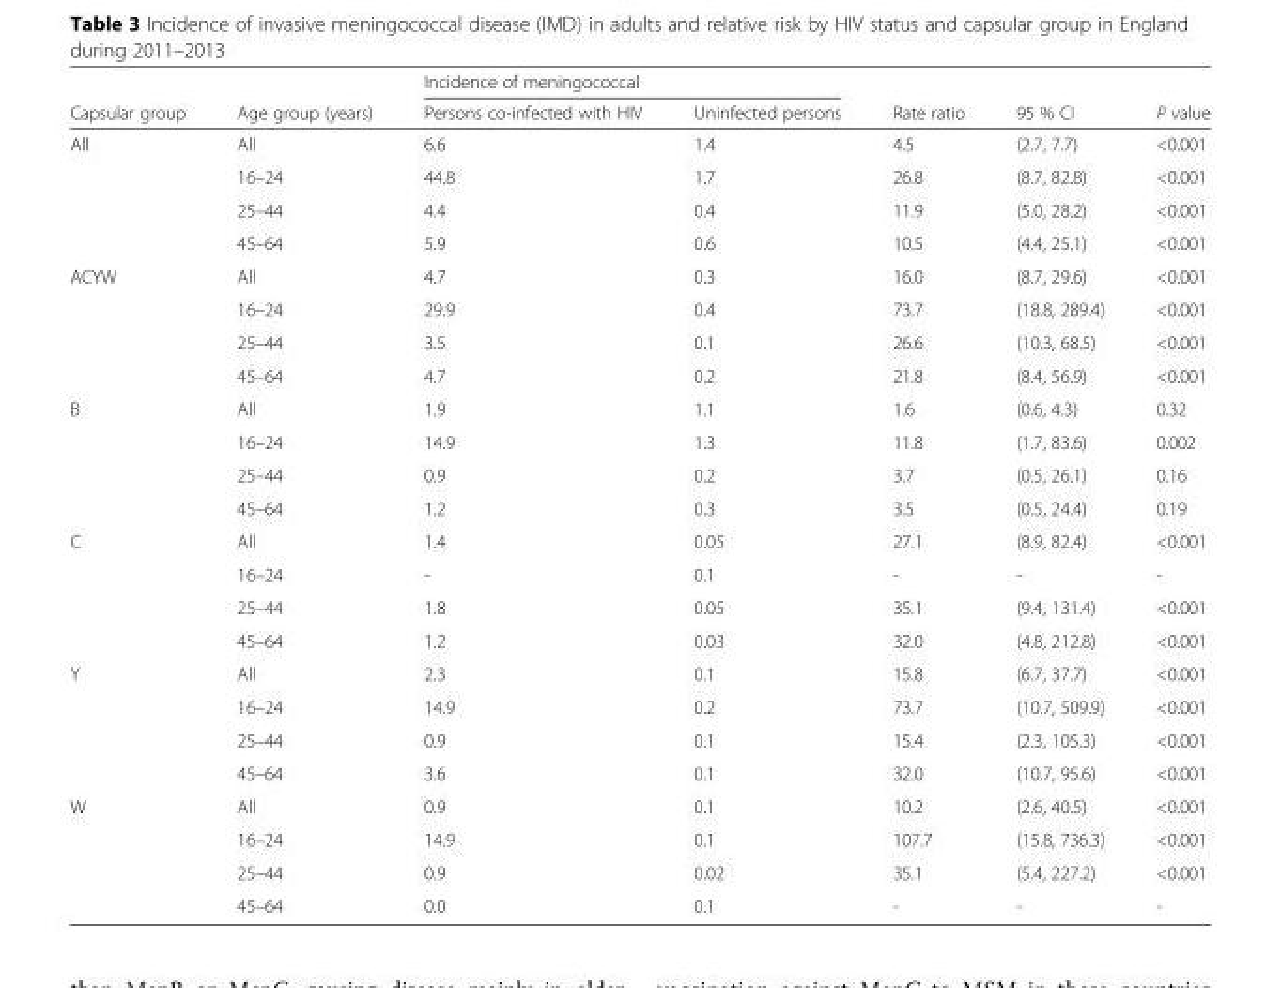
<table><thead><tr><td rowspan="2">Capsular group</td><td rowspan="2">Age group (years)</td><td colspan="2">Incidence of meningococcal</td><td rowspan="2">Rate ratio</td><td rowspan="2">95 % CI</td><td rowspan="2">P value</td></tr><tr><td>Persons co-infected with HIV</td><td>Uninfected persons</td></tr></thead><tbody><tr><td rowspan="4">All</td><td>All</td><td>6.6</td><td>1.4</td><td>4.5</td><td>(2.7, 7.7)</td><td>&lt;0.001</td></tr><tr><td>16–24</td><td>44.8</td><td>1.7</td><td>26.8</td><td>(8.7, 82.8)</td><td>&lt;0.001</td></tr><tr><td>25–44</td><td>4.4</td><td>0.4</td><td>11.9</td><td>(5.0, 28.2)</td><td>&lt;0.001</td></tr><tr><td>45–64</td><td>5.9</td><td>0.6</td><td>10.5</td><td>(4.4, 25.1)</td><td>&lt;0.001</td></tr><tr><td rowspan="4">ACYW</td><td>All</td><td>4.7</td><td>0.3</td><td>16.0</td><td>(8.7, 29.6)</td><td>&lt;0.001</td></tr><tr><td>16–24</td><td>29.9</td><td>0.4</td><td>73.7</td><td>(18.8, 289.4)</td><td>&lt;0.001</td></tr><tr><td>25–44</td><td>3.5</td><td>0.1</td><td>26.6</td><td>(10.3, 68.5)</td><td>&lt;0.001</td></tr><tr><td>45–64</td><td>4.7</td><td>0.2</td><td>21.8</td><td>(8.4, 56.9)</td><td>&lt;0.001</td></tr><tr><td rowspan="4">B</td><td>All</td><td>1.9</td><td>1.1</td><td>1.6</td><td>(0.6, 4.3)</td><td>0.32</td></tr><tr><td>16–24</td><td>14.9</td><td>1.3</td><td>11.8</td><td>(1.7, 83.6)</td><td>0.002</td></tr><tr><td>25–44</td><td>0.9</td><td>0.2</td><td>3.7</td><td>(0.5, 26.1)</td><td>0.16</td></tr><tr><td>45–64</td><td>1.2</td><td>0.3</td><td>3.5</td><td>(0.5, 24.4)</td><td>0.19</td></tr><tr><td rowspan="4">C</td><td>All</td><td>1.4</td><td>0.05</td><td>27.1</td><td>(8.9, 82.4)</td><td>&lt;0.001</td></tr><tr><td>16–24</td><td>-</td><td>0.1</td><td>-</td><td>-</td><td>-</td></tr><tr><td>25–44</td><td>1.8</td><td>0.05</td><td>35.1</td><td>(9.4, 131.4)</td><td>&lt;0.001</td></tr><tr><td>45–64</td><td>1.2</td><td>0.03</td><td>32.0</td><td>(4.8, 212.8)</td><td>&lt;0.001</td></tr><tr><td rowspan="4">Y</td><td>All</td><td>2.3</td><td>0.1</td><td>15.8</td><td>(6.7, 37.7)</td><td>&lt;0.001</td></tr><tr><td>16–24</td><td>14.9</td><td>0.2</td><td>73.7</td><td>(10.7, 509.9)</td><td>&lt;0.001</td></tr><tr><td>25–44</td><td>0.9</td><td>0.1</td><td>15.4</td><td>(2.3, 105.3)</td><td>&lt;0.001</td></tr><tr><td>45–64</td><td>3.6</td><td>0.1</td><td>32.0</td><td>(10.7, 95.6)</td><td>&lt;0.001</td></tr><tr><td rowspan="4">W</td><td>All</td><td>0.9</td><td>0.1</td><td>10.2</td><td>(2.6, 40.5)</td><td>&lt;0.001</td></tr><tr><td>16–24</td><td>14.9</td><td>0.1</td><td>107.7</td><td>(15.8, 736.3)</td><td>&lt;0.001</td></tr><tr><td>25–44</td><td>0.9</td><td>0.02</td><td>35.1</td><td>(5.4, 227.2)</td><td>&lt;0.001</td></tr><tr><td>45–64</td><td>0.0</td><td>0.1</td><td>-</td><td>-</td><td>-</td></tr></tbody></table>